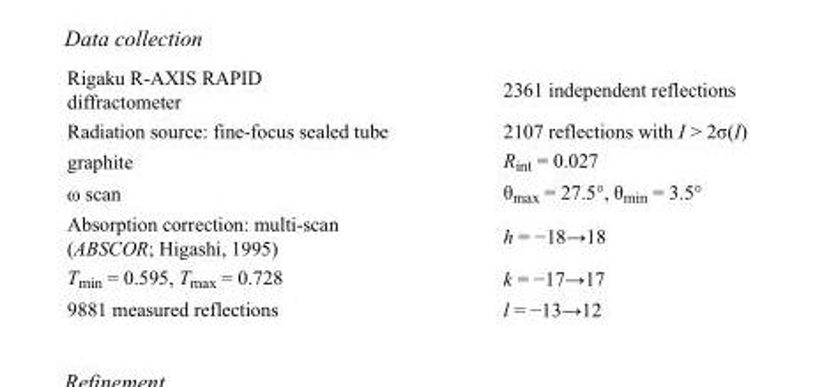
<table><tbody><tr><td>Rigaku R-AXIS RAPID diffractometer</td><td>2361 independent reflections</td></tr><tr><td>Radiation source: fine-focus sealed tube</td><td>2107 reflections with I &gt; 2σ(I)</td></tr><tr><td>graphite</td><td>R<sub>int</sub> = 0.027</td></tr><tr><td>ω scan</td><td>θ<sub>max</sub> = 27.5°, θ<sub>min</sub> = 3.5°</td></tr><tr><td>Absorption correction: multi-scan (ABSCOR; Higashi, 1995)</td><td>h = −18→18</td></tr><tr><td>T<sub>min</sub> = 0.595, T<sub>max</sub> = 0.728</td><td>k = −17→17</td></tr><tr><td>9881 measured reflections</td><td>l = −13→12</td></tr></tbody></table>